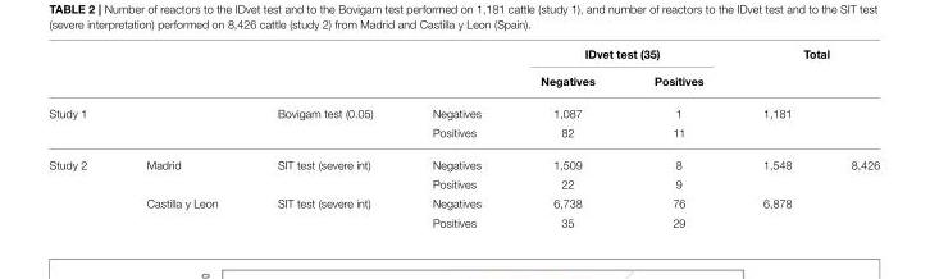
<table><thead><tr><td rowspan="2"></td><td rowspan="2"></td><td rowspan="2"></td><td rowspan="2"></td><td colspan="2">IDvet test (35)</td><td colspan="2">Total</td></tr><tr><td>Negatives</td><td>Positives</td><td></td><td></td></tr></thead><tbody><tr><td rowspan="2">Study 1</td><td></td><td>Bovigam test (0.05)</td><td>Negatives</td><td>1,087</td><td>1</td><td>1,181</td><td></td></tr><tr><td></td><td></td><td>Positives</td><td>82</td><td>11</td><td></td><td></td></tr><tr><td rowspan="4">Study 2</td><td>Madrid</td><td>SIT test (severe int)</td><td>Negatives</td><td>1,509</td><td>8</td><td>1,548</td><td>8,426</td></tr><tr><td></td><td></td><td>Positives</td><td>22</td><td>9</td><td></td><td></td></tr><tr><td>Castilla y Leon</td><td>SIT test (severe int)</td><td>Negatives</td><td>6,738</td><td>76</td><td>6,878</td><td></td></tr><tr><td></td><td></td><td>Positives</td><td>35</td><td>29</td><td></td><td></td></tr></tbody></table>